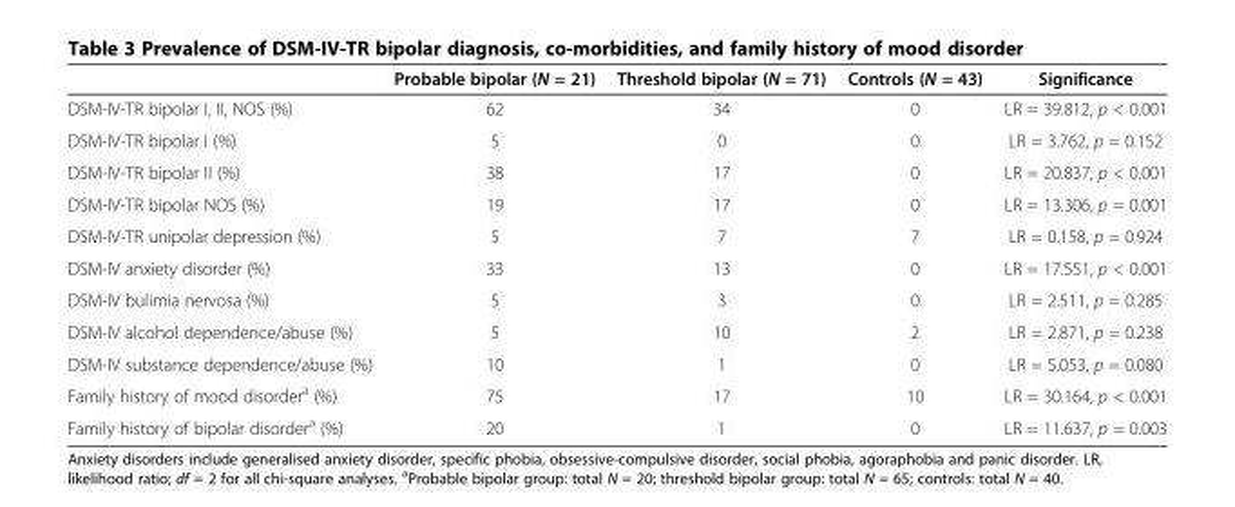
<table><thead><tr><td></td><td>Probable bipolar (N = 21)</td><td>Threshold bipolar (N = 71)</td><td>Controls (N = 43)</td><td>Significance</td></tr></thead><tbody><tr><td>DSM-IV-TR bipolar I, II, NOS (%)</td><td>62</td><td>34</td><td>0</td><td>LR = 39.812, p &lt; 0.001</td></tr><tr><td>DSM-IV-TR bipolar I (%)</td><td>5</td><td>0</td><td>0</td><td>LR = 3.762, p = 0.152</td></tr><tr><td>DSM-IV-TR bipolar II (%)</td><td>38</td><td>17</td><td>0</td><td>LR = 20.837, p &lt; 0.001</td></tr><tr><td>DSM-IV-TR bipolar NOS (%)</td><td>19</td><td>17</td><td>0</td><td>LR = 13.306, p = 0.001</td></tr><tr><td>DSM-IV-TR unipolar depression (%)</td><td>5</td><td>7</td><td>7</td><td>LR = 0.158, p = 0.924</td></tr><tr><td>DSM-IV anxiety disorder (%)</td><td>33</td><td>13</td><td>0</td><td>LR = 17.551, p &lt; 0.001</td></tr><tr><td>DSM-IV bulimia nervosa (%)</td><td>5</td><td>3</td><td>0</td><td>LR = 2.511, p = 0.285</td></tr><tr><td>DSM-IV alcohol dependence/abuse (%)</td><td>5</td><td>10</td><td>2</td><td>LR = 2.871, p = 0.238</td></tr><tr><td>DSM-IV substance dependence/abuse (%)</td><td>10</td><td>1</td><td>0</td><td>LR = 5.053, p = 0.080</td></tr><tr><td>Family history of mood disorder<sup>a</sup> (%)</td><td>75</td><td>17</td><td>10</td><td>LR = 30.164, p &lt; 0.001</td></tr><tr><td>Family history of bipolar disorder<sup>a</sup> (%)</td><td>20</td><td>1</td><td>0</td><td>LR = 11.637, p = 0.003</td></tr></tbody></table>